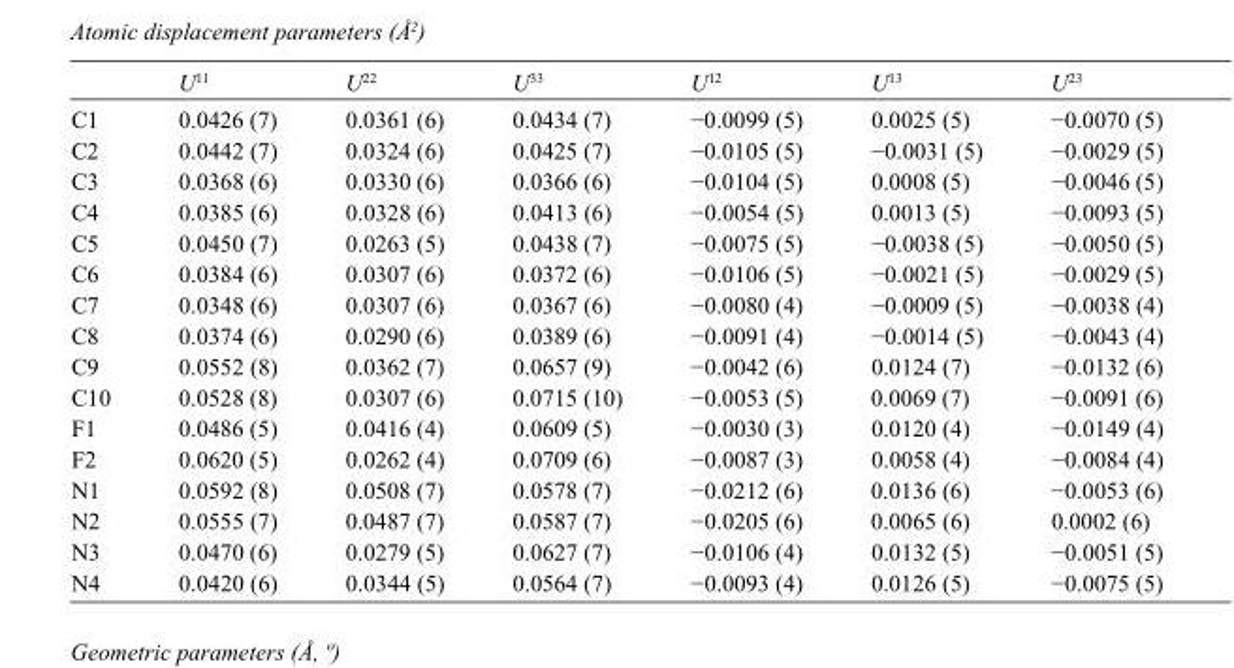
<table><thead><tr><td></td><td>U<sup>11</sup></td><td>U<sup>22</sup></td><td>U<sup>33</sup></td><td>U<sup>12</sup></td><td>U<sup>13</sup></td><td>U<sup>23</sup></td></tr></thead><tbody><tr><td>C1</td><td>0.0426 (7)</td><td>0.0361 (6)</td><td>0.0434 (7)</td><td>−0.0099 (5)</td><td>0.0025 (5)</td><td>−0.0070 (5)</td></tr><tr><td>C2</td><td>0.0442 (7)</td><td>0.0324 (6)</td><td>0.0425 (7)</td><td>−0.0105 (5)</td><td>−0.0031 (5)</td><td>−0.0029 (5)</td></tr><tr><td>C3</td><td>0.0368 (6)</td><td>0.0330 (6)</td><td>0.0366 (6)</td><td>−0.0104 (5)</td><td>0.0008 (5)</td><td>−0.0046 (5)</td></tr><tr><td>C4</td><td>0.0385 (6)</td><td>0.0328 (6)</td><td>0.0413 (6)</td><td>−0.0054 (5)</td><td>0.0013 (5)</td><td>−0.0093 (5)</td></tr><tr><td>C5</td><td>0.0450 (7)</td><td>0.0263 (5)</td><td>0.0438 (7)</td><td>−0.0075 (5)</td><td>−0.0038 (5)</td><td>−0.0050 (5)</td></tr><tr><td>C6</td><td>0.0384 (6)</td><td>0.0307 (6)</td><td>0.0372 (6)</td><td>−0.0106 (5)</td><td>−0.0021 (5)</td><td>−0.0029 (5)</td></tr><tr><td>C7</td><td>0.0348 (6)</td><td>0.0307 (6)</td><td>0.0367 (6)</td><td>−0.0080 (4)</td><td>−0.0009 (5)</td><td>−0.0038 (4)</td></tr><tr><td>C8</td><td>0.0374 (6)</td><td>0.0290 (6)</td><td>0.0389 (6)</td><td>−0.0091 (4)</td><td>−0.0014 (5)</td><td>−0.0043 (4)</td></tr><tr><td>C9</td><td>0.0552 (8)</td><td>0.0362 (7)</td><td>0.0657 (9)</td><td>−0.0042 (6)</td><td>0.0124 (7)</td><td>−0.0132 (6)</td></tr><tr><td>C10</td><td>0.0528 (8)</td><td>0.0307 (6)</td><td>0.0715 (10)</td><td>−0.0053 (5)</td><td>0.0069 (7)</td><td>−0.0091 (6)</td></tr><tr><td>F1</td><td>0.0486 (5)</td><td>0.0416 (4)</td><td>0.0609 (5)</td><td>−0.0030 (3)</td><td>0.0120 (4)</td><td>−0.0149 (4)</td></tr><tr><td>F2</td><td>0.0620 (5)</td><td>0.0262 (4)</td><td>0.0709 (6)</td><td>−0.0087 (3)</td><td>0.0058 (4)</td><td>−0.0084 (4)</td></tr><tr><td>N1</td><td>0.0592 (8)</td><td>0.0508 (7)</td><td>0.0578 (7)</td><td>−0.0212 (6)</td><td>0.0136 (6)</td><td>−0.0053 (6)</td></tr><tr><td>N2</td><td>0.0555 (7)</td><td>0.0487 (7)</td><td>0.0587 (7)</td><td>−0.0205 (6)</td><td>0.0065 (6)</td><td>0.0002 (6)</td></tr><tr><td>N3</td><td>0.0470 (6)</td><td>0.0279 (5)</td><td>0.0627 (7)</td><td>−0.0106 (4)</td><td>0.0132 (5)</td><td>−0.0051 (5)</td></tr><tr><td>N4</td><td>0.0420 (6)</td><td>0.0344 (5)</td><td>0.0564 (7)</td><td>−0.0093 (4)</td><td>0.0126 (5)</td><td>−0.0075 (5)</td></tr></tbody></table>